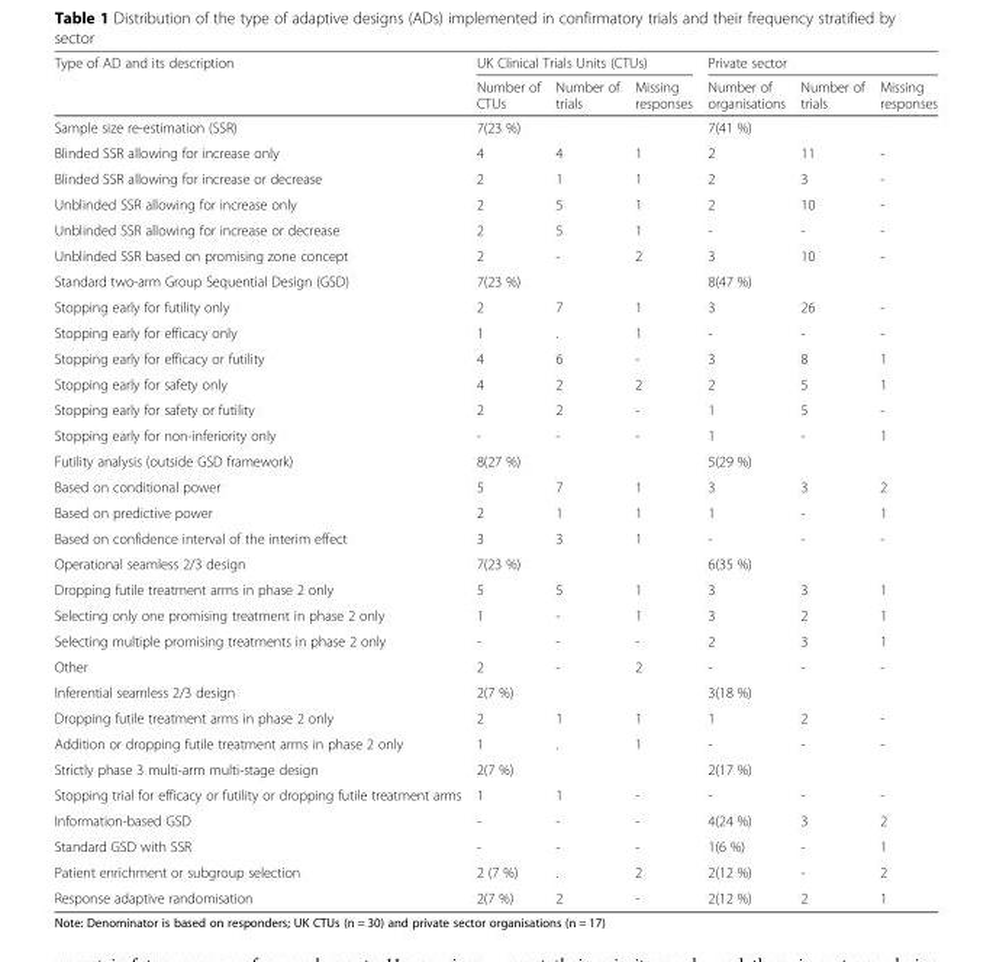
<table><thead><tr><td rowspan="2">Type of AD and its description</td><td colspan="3">UK Clinical Trials Units (CTUs)</td><td colspan="3">Private sector</td></tr><tr><td>Number of CTUs</td><td>Number of trials</td><td>Missing responses</td><td>Number of organisations</td><td>Number of trials</td><td>Missing responses</td></tr></thead><tbody><tr><td>Sample size re-estimation (SSR)</td><td>7(23 %)</td><td></td><td></td><td>7(41 %)</td><td></td><td></td></tr><tr><td>Blinded SSR allowing for increase only</td><td>4</td><td>4</td><td>1</td><td>2</td><td>11</td><td>-</td></tr><tr><td>Blinded SSR allowing for increase or decrease</td><td>2</td><td>1</td><td>1</td><td>2</td><td>3</td><td>-</td></tr><tr><td>Unblinded SSR allowing for increase only</td><td>2</td><td>5</td><td>1</td><td>2</td><td>10</td><td>-</td></tr><tr><td>Unblinded SSR allowing for increase or decrease</td><td>2</td><td>5</td><td>1</td><td>-</td><td>-</td><td>-</td></tr><tr><td>Unblinded SSR based on promising zone concept</td><td>2</td><td>-</td><td>2</td><td>3</td><td>10</td><td>-</td></tr><tr><td>Standard two-arm Group Sequential Design (GSD)</td><td>7(23 %)</td><td></td><td></td><td>8(47 %)</td><td></td><td></td></tr><tr><td>Stopping early for futility only</td><td>2</td><td>7</td><td>1</td><td>3</td><td>26</td><td>-</td></tr><tr><td>Stopping early for efficacy only</td><td>1</td><td>.</td><td>1</td><td>-</td><td>-</td><td>-</td></tr><tr><td>Stopping early for efficacy or futility</td><td>4</td><td>6</td><td>-</td><td>3</td><td>8</td><td>1</td></tr><tr><td>Stopping early for safety only</td><td>4</td><td>2</td><td>2</td><td>2</td><td>5</td><td>1</td></tr><tr><td>Stopping early for safety or futility</td><td>2</td><td>2</td><td>-</td><td>1</td><td>5</td><td>-</td></tr><tr><td>Stopping early for non-inferiority only</td><td>-</td><td>-</td><td>-</td><td>1</td><td>-</td><td>1</td></tr><tr><td>Futility analysis (outside GSD framework)</td><td>8(27 %)</td><td></td><td></td><td>5(29 %)</td><td></td><td></td></tr><tr><td>Based on conditional power</td><td>5</td><td>7</td><td>1</td><td>3</td><td>3</td><td>2</td></tr><tr><td>Based on predictive power</td><td>2</td><td>1</td><td>1</td><td>1</td><td>-</td><td>1</td></tr><tr><td>Based on confidence interval of the interim effect</td><td>3</td><td>3</td><td>1</td><td>-</td><td>-</td><td>-</td></tr><tr><td>Operational seamless 2/3 design</td><td>7(23 %)</td><td></td><td></td><td>6(35 %)</td><td></td><td></td></tr><tr><td>Dropping futile treatment arms in phase 2 only</td><td>5</td><td>5</td><td>1</td><td>3</td><td>3</td><td>1</td></tr><tr><td>Selecting only one promising treatment in phase 2 only</td><td>1</td><td>-</td><td>1</td><td>3</td><td>2</td><td>1</td></tr><tr><td>Selecting multiple promising treatments in phase 2 only</td><td>-</td><td>-</td><td>-</td><td>2</td><td>3</td><td>1</td></tr><tr><td>Other</td><td>2</td><td>-</td><td>2</td><td>-</td><td>-</td><td>-</td></tr><tr><td>Inferential seamless 2/3 design</td><td>2(7 %)</td><td></td><td></td><td>3(18 %)</td><td></td><td></td></tr><tr><td>Dropping futile treatment arms in phase 2 only</td><td>2</td><td>1</td><td>1</td><td>1</td><td>2</td><td>-</td></tr><tr><td>Addition or dropping futile treatment arms in phase 2 only</td><td>1</td><td>.</td><td>1</td><td>-</td><td>-</td><td>-</td></tr><tr><td>Strictly phase 3 multi-arm multi-stage design</td><td>2(7 %)</td><td></td><td></td><td>2(17 %)</td><td></td><td></td></tr><tr><td>Stopping trial for efficacy or futility or dropping futile treatment arms</td><td>1</td><td>1</td><td>-</td><td>-</td><td>-</td><td>-</td></tr><tr><td>Information-based GSD</td><td>-</td><td>-</td><td>-</td><td>4(24 %)</td><td>3</td><td>2</td></tr><tr><td>Standard GSD with SSR</td><td>-</td><td>-</td><td>-</td><td>1(6 %)</td><td>-</td><td>1</td></tr><tr><td>Patient enrichment or subgroup selection</td><td>2 (7 %)</td><td>.</td><td>2</td><td>2(12 %)</td><td>-</td><td>2</td></tr><tr><td>Response adaptive randomisation</td><td>2(7 %)</td><td>2</td><td>-</td><td>2(12 %)</td><td>2</td><td>1</td></tr></tbody></table>